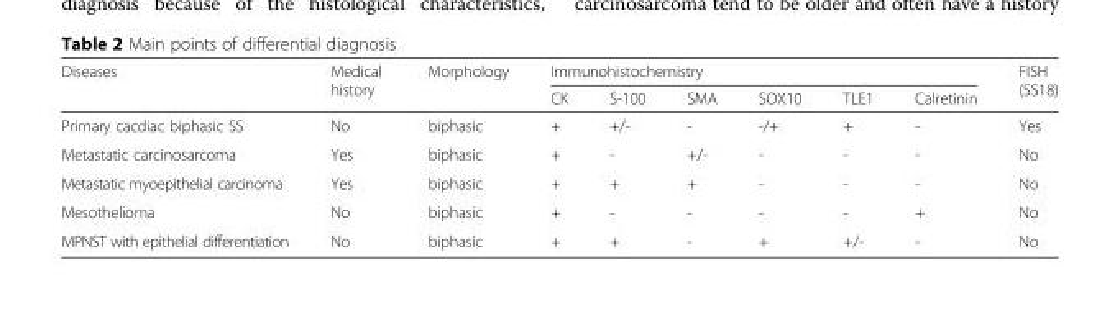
<table><thead><tr><td rowspan="2">Diseases</td><td rowspan="2">Medical history</td><td rowspan="2">Morphology</td><td colspan="6">Immunohistochemistry</td><td rowspan="2">FISH (SS18)</td></tr><tr><td>CK</td><td>S-100</td><td>SMA</td><td>SOX10</td><td>TLE1</td><td>Calretinin</td></tr></thead><tbody><tr><td>Primary cacdiac biphasic SS</td><td>No</td><td>biphasic</td><td>+</td><td>+/-</td><td>-</td><td>-/+</td><td>+</td><td>-</td><td>Yes</td></tr><tr><td>Metastatic carcinosarcoma</td><td>Yes</td><td>biphasic</td><td>+</td><td>-</td><td>+/-</td><td>-</td><td>-</td><td>-</td><td>No</td></tr><tr><td>Metastatic myoepithelial carcinoma</td><td>Yes</td><td>biphasic</td><td>+</td><td>+</td><td>+</td><td>-</td><td>-</td><td>-</td><td>No</td></tr><tr><td>Mesothelioma</td><td>No</td><td>biphasic</td><td>+</td><td>-</td><td>-</td><td>-</td><td>-</td><td>+</td><td>No</td></tr><tr><td>MPNST with epithelial differentiation</td><td>No</td><td>biphasic</td><td>+</td><td>+</td><td>-</td><td>+</td><td>+/-</td><td>-</td><td>No</td></tr></tbody></table>